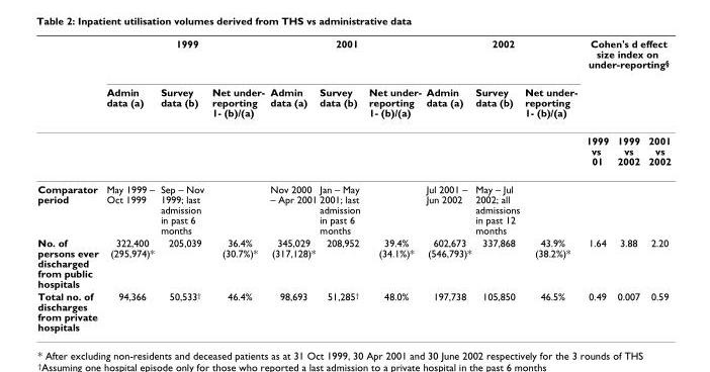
<table><thead><tr><td rowspan="2"></td><td colspan="3">1999</td><td colspan="3">2001</td><td colspan="3">2002</td><td colspan="3">Cohen&#x27;s d effect size index on under-reporting<sup>§</sup></td></tr><tr><td>Admin data (a)</td><td>Survey data (b)</td><td>Net under- reporting 1- (b)/(a)</td><td>Admin data (a)</td><td>Survey data (b)</td><td>Net under- reporting 1- (b)/(a)</td><td>Admin data (a)</td><td>Survey data (b)</td><td>Net under- reporting 1- (b)/(a)</td><td></td><td></td><td></td></tr></thead><tbody><tr><td></td><td></td><td></td><td></td><td></td><td></td><td></td><td></td><td></td><td></td><td>1999 vs 01</td><td>1999 vs 2002</td><td>2001 vs 2002</td></tr><tr><td>Comparator period</td><td>May 1999 – Oct 1999</td><td>Sep – Nov 1999; last admission in past 6 months</td><td></td><td>Nov 2000 – Apr 2001</td><td>Jan – May 2001; last admission in past 6 months</td><td></td><td>Jul 2001 – Jun 2002</td><td>May – Jul 2002; all admissions in past 12 months</td><td></td><td></td><td></td><td></td></tr><tr><td>No. of persons ever discharged from public hospitals</td><td>322,400 (295,974)*</td><td>205,039</td><td>36.4% (30.7%)*</td><td>345,029 (317,128)*</td><td>208,952</td><td>39.4% (34.1%)*</td><td>602,673 (546,793)*</td><td>337,868</td><td>43.9% (38.2%)*</td><td>1.64</td><td>3.88</td><td>2.20</td></tr><tr><td>Total no. of discharges from private hospitals</td><td>94,366</td><td>50,533<sup>†</sup></td><td>46.4%</td><td>98,693</td><td>51,285<sup>†</sup></td><td>48.0%</td><td>197,738</td><td>105,850</td><td>46.5%</td><td>0.49</td><td>0.007</td><td>0.59</td></tr></tbody></table>